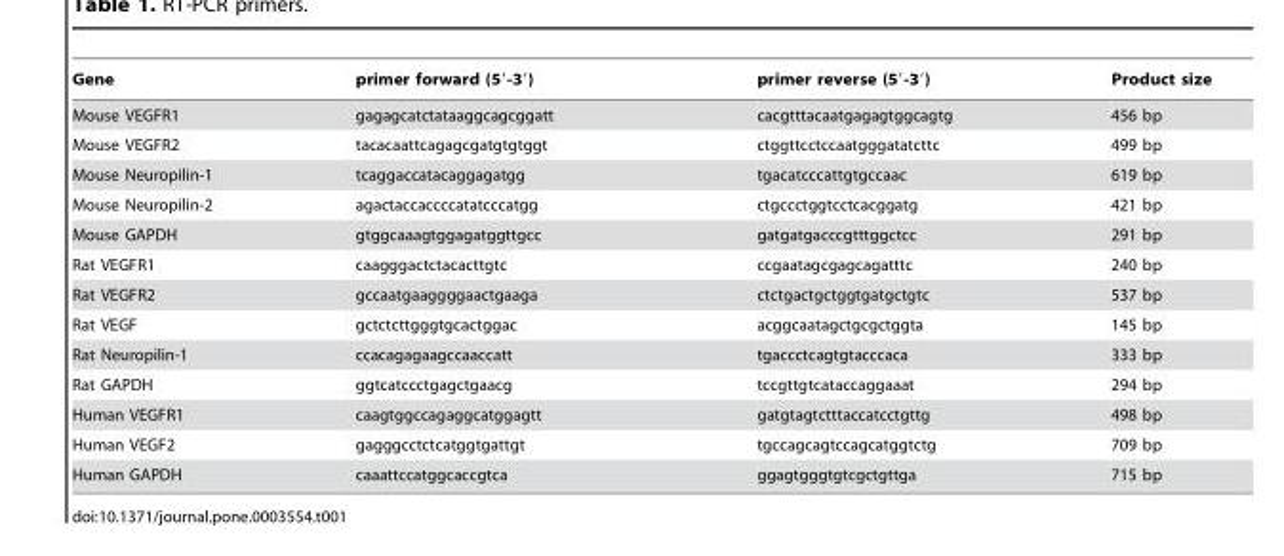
<table><thead><tr><td>Gene</td><td>primer forward (5′-3′)</td><td>primer reverse (5′-3′)</td><td>Product size</td></tr></thead><tbody><tr><td>Mouse VEGFR1</td><td>gagagcatctataaggcagcggatt</td><td>cacgtttacaatgagagtggcagtg</td><td>456 bp</td></tr><tr><td>Mouse VEGFR2</td><td>tacacaattcagagcgatgtgtggt</td><td>ctggttcctccaatgggatatcttc</td><td>499 bp</td></tr><tr><td>Mouse Neuropilin-1</td><td>tcaggaccatacaggagatgg</td><td>tgacatcccattgtgccaac</td><td>619 bp</td></tr><tr><td>Mouse Neuropilin-2</td><td>agactaccaccccatatcccatgg</td><td>ctgccctggtcctcacggatg</td><td>421 bp</td></tr><tr><td>Mouse GAPDH</td><td>gtggcaaagtggagatggttgcc</td><td>gatgatgacccgtttggctcc</td><td>291 bp</td></tr><tr><td>Rat VEGFR1</td><td>caagggactctacacttgtc</td><td>ccgaatagcgagcagatttc</td><td>240 bp</td></tr><tr><td>Rat VEGFR2</td><td>gccaatgaaggggaactgaaga</td><td>ctctgactgctggtgatgctgtc</td><td>537 bp</td></tr><tr><td>Rat VEGF</td><td>gctctcttgggtgcactggac</td><td>acggcaatagctgcgctggta</td><td>145 bp</td></tr><tr><td>Rat Neuropilin-1</td><td>ccacagagaagccaaccatt</td><td>tgaccctcagtgtacccaca</td><td>333 bp</td></tr><tr><td>Rat GAPDH</td><td>ggtcatccctgagctgaacg</td><td>tccgttgtcataccaggaaat</td><td>294 bp</td></tr><tr><td>Human VEGFR1</td><td>caagtggccagaggcatggagtt</td><td>gatgtagtctttaccatcctgttg</td><td>498 bp</td></tr><tr><td>Human VEGF2</td><td>gagggcctctcatggtgattgt</td><td>tgccagcagtccagcatggtctg</td><td>709 bp</td></tr><tr><td>Human GAPDH</td><td>caaattccatggcaccgtca</td><td>ggagtgggtgtcgctgttga</td><td>715 bp</td></tr></tbody></table>